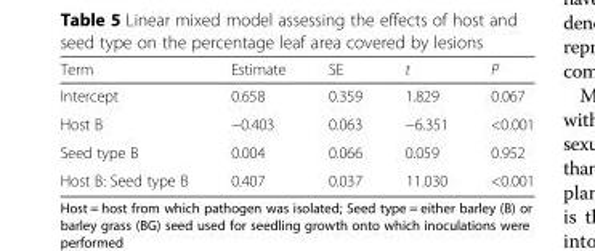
<table><thead><tr><td>Term</td><td>Estimate</td><td>SE</td><td>t</td><td>P</td></tr></thead><tbody><tr><td>Intercept</td><td>0.658</td><td>0.359</td><td>1.829</td><td>0.067</td></tr><tr><td>Host B</td><td>−0.403</td><td>0.063</td><td>−6.351</td><td>&lt;0.001</td></tr><tr><td>Seed type B</td><td>0.004</td><td>0.066</td><td>0.059</td><td>0.952</td></tr><tr><td>Host B: Seed type B</td><td>0.407</td><td>0.037</td><td>11.030</td><td>&lt;0.001</td></tr></tbody></table>